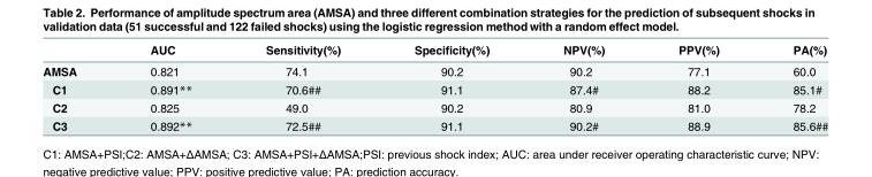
<table><thead><tr><td></td><td>AUC</td><td>Sensitivity(%)</td><td>Specificity(%)</td><td>NPV(%)</td><td>PPV(%)</td><td>PA(%)</td></tr></thead><tbody><tr><td>AMSA</td><td>0.821</td><td>74.1</td><td>90.2</td><td>90.2</td><td>77.1</td><td>60.0</td></tr><tr><td>C1</td><td>0.891**</td><td>70.6##</td><td>91.1</td><td>87.4#</td><td>88.2</td><td>85.1#</td></tr><tr><td>C2</td><td>0.825</td><td>49.0</td><td>90.2</td><td>80.9</td><td>81.0</td><td>78.2</td></tr><tr><td>C3</td><td>0.892**</td><td>72.5##</td><td>91.1</td><td>90.2#</td><td>88.9</td><td>85.6##</td></tr></tbody></table>